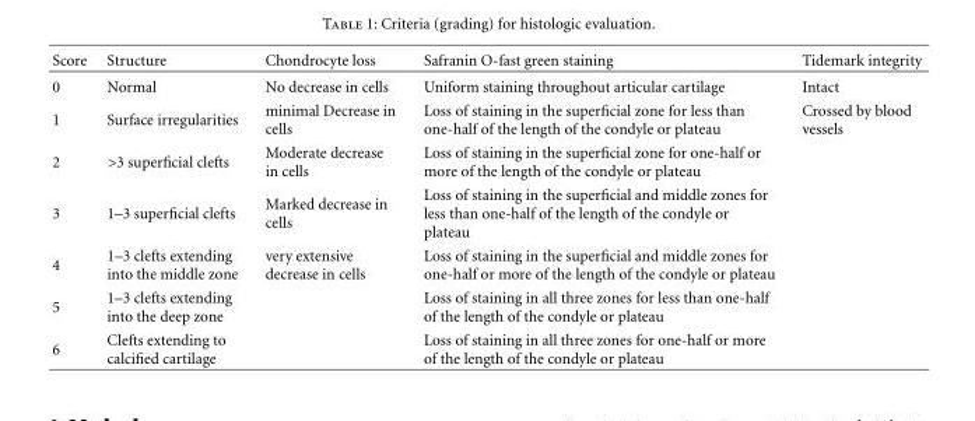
<table><thead><tr><td>Score</td><td>Structure</td><td>Chondrocyte loss</td><td>Safranin O-fast green staining</td><td>Tidemark integrity</td></tr></thead><tbody><tr><td>0</td><td>Normal</td><td>No decrease in cells</td><td>Uniform staining throughout articular cartilage</td><td>Intact</td></tr><tr><td>1</td><td>Surface irregularities</td><td>minimal Decrease in cells</td><td>Loss of staining in the superficial zone for less than one-half of the length of the condyle or plateau</td><td>Crossed by blood vessels</td></tr><tr><td>2</td><td>&gt;3 superficial clefts</td><td>Moderate decrease in cells</td><td>Loss of staining in the superficial zone for one-half or more of the length of the condyle or plateau</td><td></td></tr><tr><td>3</td><td>1–3 superficial clefts</td><td>Marked decrease in cells</td><td>Loss of staining in the superficial and middle zones for less than one-half of the length of the condyle or plateau</td><td></td></tr><tr><td>4</td><td>1–3 clefts extending into the middle zone</td><td>very extensive decrease in cells</td><td>Loss of staining in the superficial and middle zones for one-half or more of the length of the condyle or plateau</td><td></td></tr><tr><td>5</td><td>1–3 clefts extending into the deep zone</td><td></td><td>Loss of staining in all three zones for less than one-half of the length of the condyle or plateau</td><td></td></tr><tr><td>6</td><td>Clefts extending to calcified cartilage</td><td></td><td>Loss of staining in all three zones for one-half or more of the length of the condyle or plateau</td><td></td></tr></tbody></table>